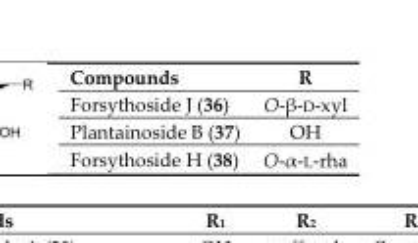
<table><tbody><tr><td>Compounds</td><td>R</td></tr><tr><td>Forsythoside J (36)</td><td>O-β-D-xyl</td></tr><tr><td>Plantainoside B (37)</td><td>OH</td></tr><tr><td>Forsythoside H (38)</td><td>O-α-L-rha</td></tr></tbody></table>